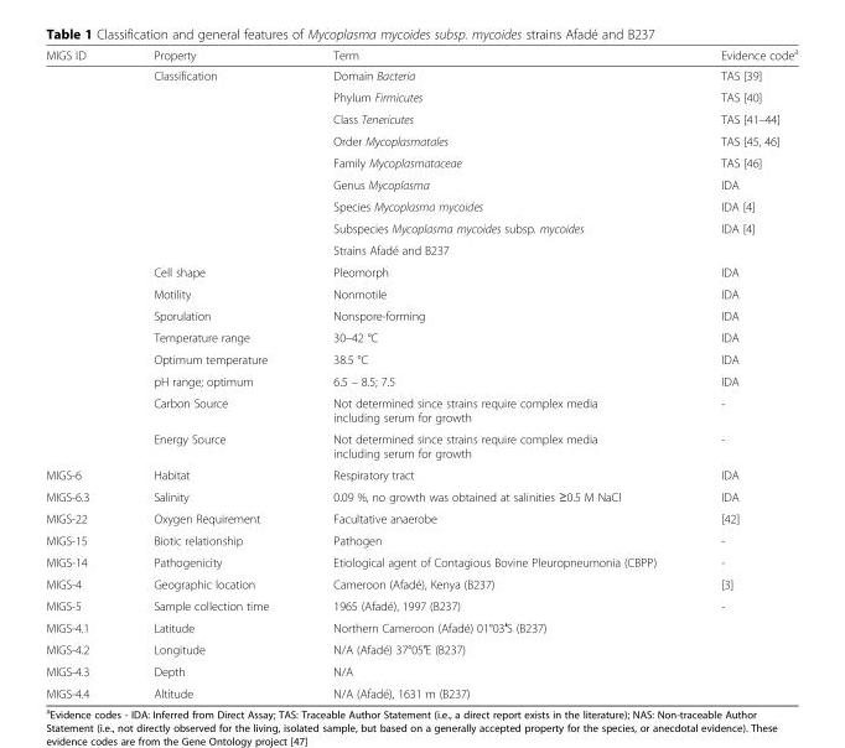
<table><thead><tr><td>MIGS ID</td><td>Property</td><td>Term</td><td>Evidence code<sup>a</sup></td></tr></thead><tbody><tr><td></td><td rowspan="9">Classification</td><td>Domain Bacteria</td><td>TAS [39]</td></tr><tr><td></td><td>Phylum Firmicutes</td><td>TAS [40]</td></tr><tr><td></td><td>Class Tenericutes</td><td>TAS [41–44]</td></tr><tr><td></td><td>Order Mycoplasmatales</td><td>TAS [45, 46]</td></tr><tr><td></td><td>Family Mycoplasmataceae</td><td>TAS [46]</td></tr><tr><td></td><td>Genus Mycoplasma</td><td>IDA</td></tr><tr><td></td><td>Species Mycoplasma mycoides</td><td>IDA [4]</td></tr><tr><td></td><td>Subspecies Mycoplasma mycoides subsp. mycoides</td><td>IDA [4]</td></tr><tr><td></td><td>Strains Afadé and B237</td><td></td></tr><tr><td></td><td>Cell shape</td><td>Pleomorph</td><td>IDA</td></tr><tr><td></td><td>Motility</td><td>Nonmotile</td><td>IDA</td></tr><tr><td></td><td>Sporulation</td><td>Nonspore-forming</td><td>IDA</td></tr><tr><td></td><td>Temperature range</td><td>30–42 °C</td><td>IDA</td></tr><tr><td></td><td>Optimum temperature</td><td>38.5 °C</td><td>IDA</td></tr><tr><td></td><td>pH range; optimum</td><td>6.5 – 8.5; 7.5</td><td>IDA</td></tr><tr><td></td><td>Carbon Source</td><td>Not determined since strains require complex media including serum for growth</td><td>-</td></tr><tr><td></td><td>Energy Source</td><td>Not determined since strains require complex media including serum for growth</td><td>-</td></tr><tr><td>MIGS-6</td><td>Habitat</td><td>Respiratory tract</td><td>IDA</td></tr><tr><td>MIGS-6.3</td><td>Salinity</td><td>0.09 %, no growth was obtained at salinities ≥0.5 M NaCl</td><td>IDA</td></tr><tr><td>MIGS-22</td><td>Oxygen Requirement</td><td>Facultative anaerobe</td><td>[42]</td></tr><tr><td>MIGS-15</td><td>Biotic relationship</td><td>Pathogen</td><td>-</td></tr><tr><td>MIGS-14</td><td>Pathogenicity</td><td>Etiological agent of Contagious Bovine Pleuropneumonia (CBPP)</td><td>-</td></tr><tr><td>MIGS-4</td><td>Geographic location</td><td>Cameroon (Afadé), Kenya (B237)</td><td>[3]</td></tr><tr><td>MIGS-5</td><td>Sample collection time</td><td>1965 (Afadé), 1997 (B237)</td><td>-</td></tr><tr><td>MIGS-4.1</td><td>Latitude</td><td>Northern Cameroon (Afadé) 01°03′S (B237)</td><td></td></tr><tr><td>MIGS-4.2</td><td>Longitude</td><td>N/A (Afadé) 37°05′E (B237)</td><td></td></tr><tr><td>MIGS-4.3</td><td>Depth</td><td>N/A</td><td></td></tr><tr><td>MIGS-4.4</td><td>Altitude</td><td>N/A (Afadé), 1631 m (B237)</td><td></td></tr></tbody></table>